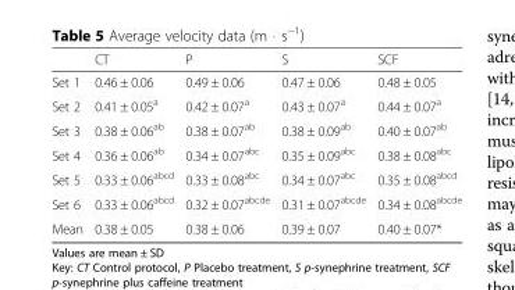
<table><thead><tr><td></td><td>CT</td><td>P</td><td>S</td><td>SCF</td></tr></thead><tbody><tr><td>Set 1</td><td>0.46 ± 0.06</td><td>0.49 ± 0.06</td><td>0.47 ± 0.06</td><td>0.48 ± 0.05</td></tr><tr><td>Set 2</td><td>0.41 ± 0.05<sup>a</sup></td><td>0.42 ± 0.07<sup>a</sup></td><td>0.43 ± 0.07<sup>a</sup></td><td>0.44 ± 0.07<sup>a</sup></td></tr><tr><td>Set 3</td><td>0.38 ± 0.06<sup>ab</sup></td><td>0.38 ± 0.07<sup>ab</sup></td><td>0.38 ± 0.09<sup>ab</sup></td><td>0.40 ± 0.07<sup>ab</sup></td></tr><tr><td>Set 4</td><td>0.36 ± 0.06<sup>ab</sup></td><td>0.34 ± 0.07<sup>abc</sup></td><td>0.35 ± 0.09<sup>abc</sup></td><td>0.38 ± 0.08<sup>abc</sup></td></tr><tr><td>Set 5</td><td>0.33 ± 0.06<sup>abcd</sup></td><td>0.33 ± 0.08<sup>abc</sup></td><td>0.34 ± 0.07<sup>abc</sup></td><td>0.35 ± 0.08<sup>abcd</sup></td></tr><tr><td>Set 6</td><td>0.33 ± 0.06<sup>abcd</sup></td><td>0.32 ± 0.07<sup>abcde</sup></td><td>0.31 ± 0.07<sup>abcde</sup></td><td>0.34 ± 0.08<sup>abcde</sup></td></tr><tr><td>Mean</td><td>0.38 ± 0.05</td><td>0.38 ± 0.06</td><td>0.39 ± 0.07</td><td>0.40 ± 0.07*</td></tr></tbody></table>